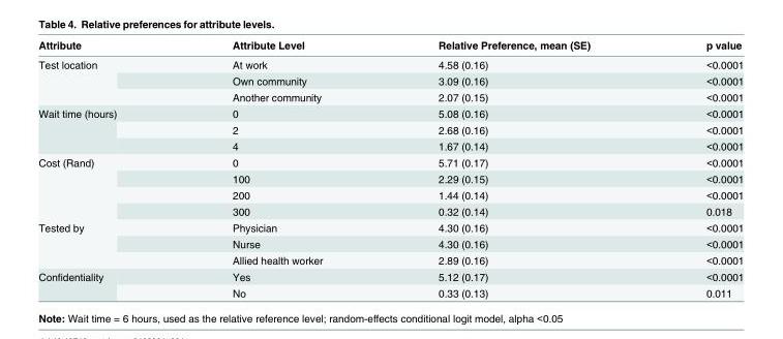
<table><thead><tr><td>Attribute</td><td>Attribute Level</td><td>Relative Preference, mean (SE)</td><td>p value</td></tr></thead><tbody><tr><td rowspan="3">Test location</td><td>At work</td><td>4.58 (0.16)</td><td>&lt;0.0001</td></tr><tr><td>Own community</td><td>3.09 (0.16)</td><td>&lt;0.0001</td></tr><tr><td>Another community</td><td>2.07 (0.15)</td><td>&lt;0.0001</td></tr><tr><td rowspan="3">Wait time (hours)</td><td>0</td><td>5.08 (0.16)</td><td>&lt;0.0001</td></tr><tr><td>2</td><td>2.68 (0.16)</td><td>&lt;0.0001</td></tr><tr><td>4</td><td>1.67 (0.14)</td><td>&lt;0.0001</td></tr><tr><td rowspan="4">Cost (Rand)</td><td>0</td><td>5.71 (0.17)</td><td>&lt;0.0001</td></tr><tr><td>100</td><td>2.29 (0.15)</td><td>&lt;0.0001</td></tr><tr><td>200</td><td>1.44 (0.14)</td><td>&lt;0.0001</td></tr><tr><td>300</td><td>0.32 (0.14)</td><td>0.018</td></tr><tr><td rowspan="3">Tested by</td><td>Physician</td><td>4.30 (0.16)</td><td>&lt;0.0001</td></tr><tr><td>Nurse</td><td>4.30 (0.16)</td><td>&lt;0.0001</td></tr><tr><td>Allied health worker</td><td>2.89 (0.16)</td><td>&lt;0.0001</td></tr><tr><td rowspan="2">Confidentiality</td><td>Yes</td><td>5.12 (0.17)</td><td>&lt;0.0001</td></tr><tr><td>No</td><td>0.33 (0.13)</td><td>0.011</td></tr></tbody></table>